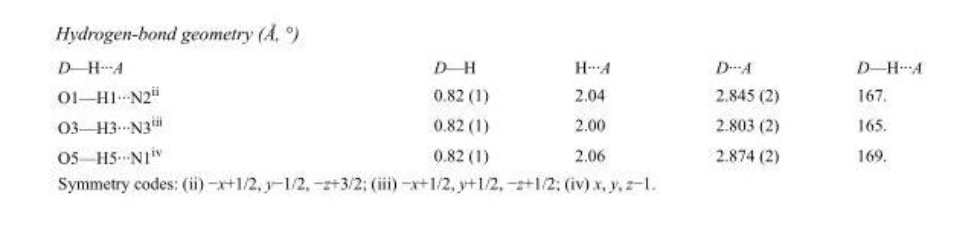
<table><tbody><tr><td>D—H···A</td><td>D—H</td><td>H···A</td><td>D···A</td><td>D—H···A</td></tr><tr><td>O1—H1···N2<sup>ii</sup></td><td>0.82 (1)</td><td>2.04</td><td>2.845 (2)</td><td>167.</td></tr><tr><td>O3—H3···N3<sup>iii</sup></td><td>0.82 (1)</td><td>2.00</td><td>2.803 (2)</td><td>165.</td></tr><tr><td>O5—H5···N1<sup>iv</sup></td><td>0.82 (1)</td><td>2.06</td><td>2.874 (2)</td><td>169.</td></tr></tbody></table>